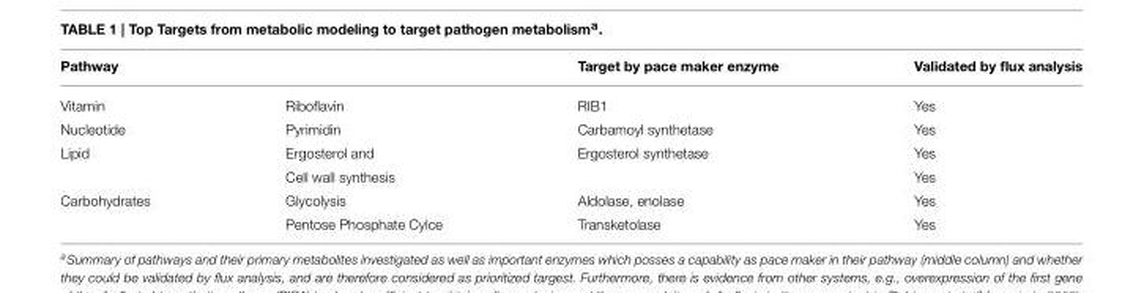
<table><thead><tr><td colspan="2">Pathway</td><td rowspan="2">Target by pace maker enzyme RIB1</td><td rowspan="2">Validated by flux analysis Yes</td></tr><tr><td>Vitamin</td><td>Riboflavin</td></tr></thead><tbody><tr><td>Nucleotide</td><td>Pyrimidin</td><td>Carbamoyl synthetase</td><td>Yes</td></tr><tr><td rowspan="2">Lipid</td><td>Ergosterol and</td><td>Ergosterol synthetase</td><td>Yes</td></tr><tr><td>Cell wall synthesis</td><td></td><td>Yes</td></tr><tr><td rowspan="2">Carbohydrates</td><td>Glycolysis</td><td>Aldolase, enolase</td><td>Yes</td></tr><tr><td>Pentose Phosphate Cylce</td><td>Transketolase</td><td>Yes</td></tr></tbody></table>